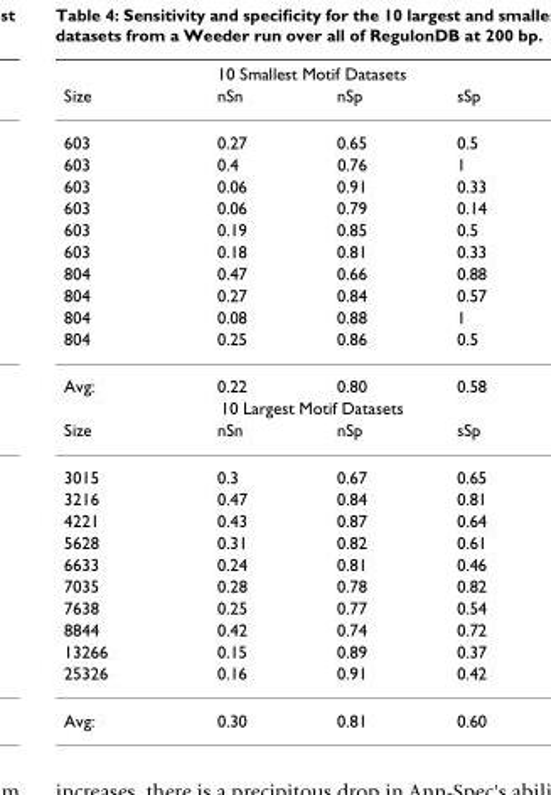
<table><thead><tr><td colspan="4">10 Smallest Motif Datasets</td></tr><tr><td>Size</td><td>nSn</td><td>nSp</td><td>sSp</td></tr></thead><tbody><tr><td>603</td><td>0.27</td><td>0.65</td><td>0.5</td></tr><tr><td>603</td><td>0.4</td><td>0.76</td><td>1</td></tr><tr><td>603</td><td>0.06</td><td>0.91</td><td>0.33</td></tr><tr><td>603</td><td>0.06</td><td>0.79</td><td>0.14</td></tr><tr><td>603</td><td>0.19</td><td>0.85</td><td>0.5</td></tr><tr><td>603</td><td>0.18</td><td>0.81</td><td>0.33</td></tr><tr><td>804</td><td>0.47</td><td>0.66</td><td>0.88</td></tr><tr><td>804</td><td>0.27</td><td>0.84</td><td>0.57</td></tr><tr><td>804</td><td>0.08</td><td>0.88</td><td>1</td></tr><tr><td>804</td><td>0.25</td><td>0.86</td><td>0.5</td></tr><tr><td>Avg:</td><td>0.22</td><td>0.80</td><td>0.58</td></tr><tr><td colspan="4">10 Largest Motif Datasets</td></tr><tr><td>Size</td><td>nSn</td><td>nSp</td><td>sSp</td></tr><tr><td>3015</td><td>0.3</td><td>0.67</td><td>0.65</td></tr><tr><td>3216</td><td>0.47</td><td>0.84</td><td>0.81</td></tr><tr><td>4221</td><td>0.43</td><td>0.87</td><td>0.64</td></tr><tr><td>5628</td><td>0.31</td><td>0.82</td><td>0.61</td></tr><tr><td>6633</td><td>0.24</td><td>0.81</td><td>0.46</td></tr><tr><td>7035</td><td>0.28</td><td>0.78</td><td>0.82</td></tr><tr><td>7638</td><td>0.25</td><td>0.77</td><td>0.54</td></tr><tr><td>8844</td><td>0.42</td><td>0.74</td><td>0.72</td></tr><tr><td>13266</td><td>0.15</td><td>0.89</td><td>0.37</td></tr><tr><td>25326</td><td>0.16</td><td>0.91</td><td>0.42</td></tr><tr><td>Avg:</td><td>0.30</td><td>0.81</td><td>0.60</td></tr></tbody></table>